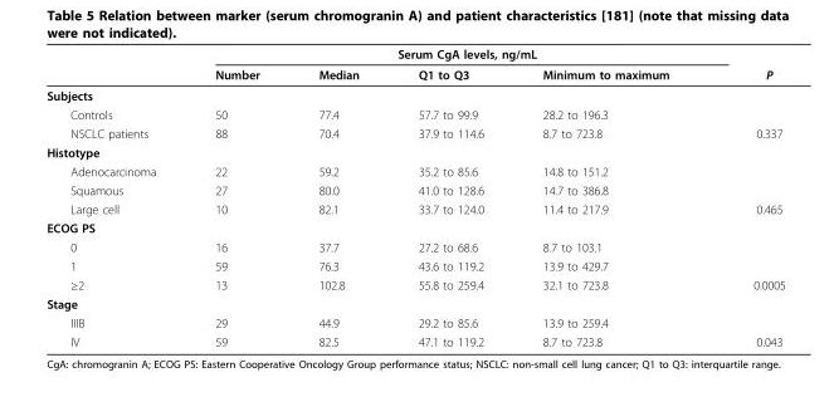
<table><thead><tr><td rowspan="2"></td><td colspan="4">Serum CgA levels, ng/mL</td><td rowspan="2">P</td></tr><tr><td>Number</td><td>Median</td><td>Q1 to Q3</td><td>Minimum to maximum</td></tr></thead><tbody><tr><td colspan="6">Subjects</td></tr><tr><td>Controls</td><td>50</td><td>77.4</td><td>57.7 to 99.9</td><td>28.2 to 196.3</td><td></td></tr><tr><td>NSCLC patients</td><td>88</td><td>70.4</td><td>37.9 to 114.6</td><td>8.7 to 723.8</td><td>0.337</td></tr><tr><td colspan="6">Histotype</td></tr><tr><td>Adenocarcinoma</td><td>22</td><td>59.2</td><td>35.2 to 85.6</td><td>14.8 to 151.2</td><td></td></tr><tr><td>Squamous</td><td>27</td><td>80.0</td><td>41.0 to 128.6</td><td>14.7 to 386.8</td><td></td></tr><tr><td>Large cell</td><td>10</td><td>82.1</td><td>33.7 to 124.0</td><td>11.4 to 217.9</td><td>0.465</td></tr><tr><td colspan="6">ECOG PS</td></tr><tr><td>0</td><td>16</td><td>37.7</td><td>27.2 to 68.6</td><td>8.7 to 103.1</td><td></td></tr><tr><td>1</td><td>59</td><td>76.3</td><td>43.6 to 119.2</td><td>13.9 to 429.7</td><td></td></tr><tr><td>≥2</td><td>13</td><td>102.8</td><td>55.8 to 259.4</td><td>32.1 to 723.8</td><td>0.0005</td></tr><tr><td colspan="6">Stage</td></tr><tr><td>IIIB</td><td>29</td><td>44.9</td><td>29.2 to 85.6</td><td>13.9 to 259.4</td><td></td></tr><tr><td>IV</td><td>59</td><td>82.5</td><td>47.1 to 119.2</td><td>8.7 to 723.8</td><td>0.043</td></tr></tbody></table>